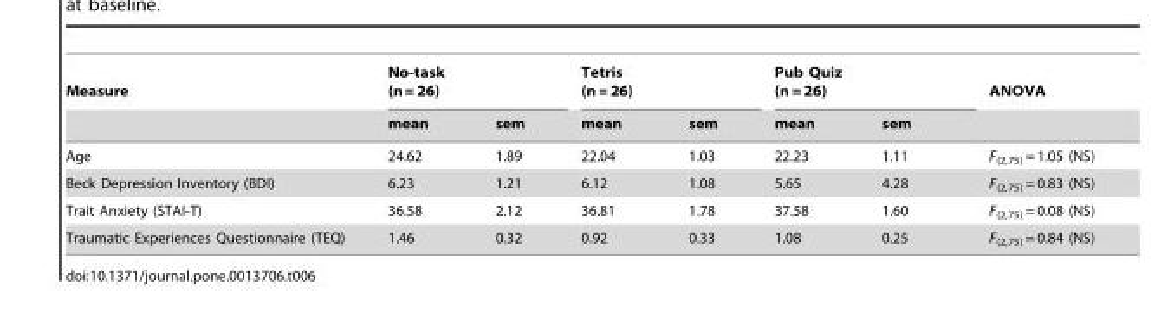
<table><thead><tr><td rowspan="2">Measure</td><td colspan="2">No-task (n = 26)</td><td colspan="2">Tetris (n = 26)</td><td colspan="2">Pub Quiz (n = 26)</td><td rowspan="2">ANOVA</td></tr><tr><td>mean</td><td>sem</td><td>mean</td><td>sem</td><td>mean</td><td>sem</td></tr></thead><tbody><tr><td>Age</td><td>24.62</td><td>1.89</td><td>22.04</td><td>1.03</td><td>22.23</td><td>1.11</td><td>F<sub>(2,75)</sub> = 1.05 (NS)</td></tr><tr><td>Beck Depression Inventory (BDI)</td><td>6.23</td><td>1.21</td><td>6.12</td><td>1.08</td><td>5.65</td><td>4.28</td><td>F<sub>(2,75)</sub> = 0.83 (NS)</td></tr><tr><td>Trait Anxiety (STAI-T)</td><td>36.58</td><td>2.12</td><td>36.81</td><td>1.78</td><td>37.58</td><td>1.60</td><td>F<sub>(2,75)</sub> = 0.08 (NS)</td></tr><tr><td>Traumatic Experiences Questionnaire (TEQ)</td><td>1.46</td><td>0.32</td><td>0.92</td><td>0.33</td><td>1.08</td><td>0.25</td><td>F<sub>(2,75)</sub> = 0.84 (NS)</td></tr></tbody></table>